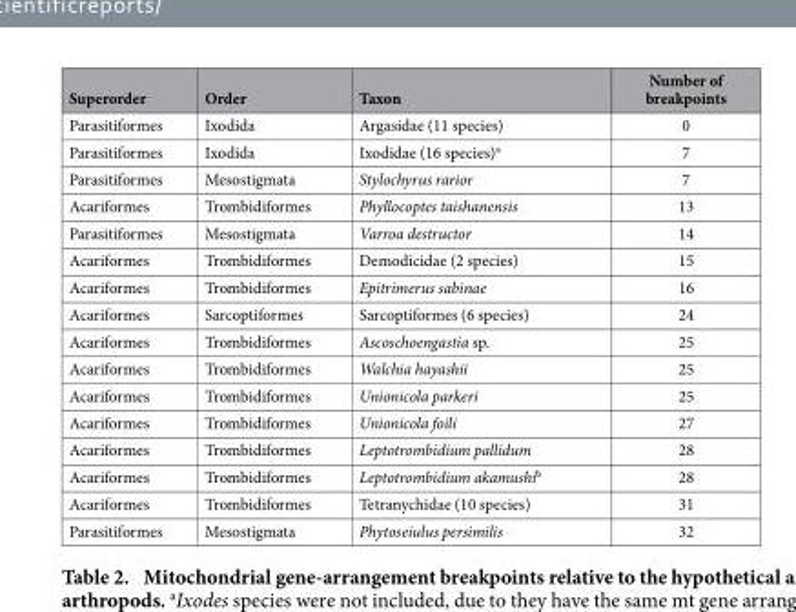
<table><thead><tr><td>Superorder</td><td>Order</td><td>Taxon</td><td>Number of breakpoints</td></tr></thead><tbody><tr><td>Parasitiformes</td><td>Ixodida</td><td>Argasidae (11 species)</td><td>0</td></tr><tr><td>Parasitiformes</td><td>Ixodida</td><td>Ixodidae (16 species)<sup>a</sup></td><td>7</td></tr><tr><td>Parasitiformes</td><td>Mesostigmata</td><td>Stylochyrus rarior</td><td>7</td></tr><tr><td>Acariformes</td><td>Trombidiformes</td><td>Phyllocoptes taishanensis</td><td>13</td></tr><tr><td>Parasitiformes</td><td>Mesostigmata</td><td>Varroa destructor</td><td>14</td></tr><tr><td>Acariformes</td><td>Trombidiformes</td><td>Demodicidae (2 species)</td><td>15</td></tr><tr><td>Acariformes</td><td>Trombidiformes</td><td>Epitrimerus sabinae</td><td>16</td></tr><tr><td>Acariformes</td><td>Sarcoptiformes</td><td>Sarcoptiformes (6 species)</td><td>24</td></tr><tr><td>Acariformes</td><td>Trombidiformes</td><td>Ascoschoengastia sp.</td><td>25</td></tr><tr><td>Acariformes</td><td>Trombidiformes</td><td>Walchia hayashii</td><td>25</td></tr><tr><td>Acariformes</td><td>Trombidiformes</td><td>Unionicola parkeri</td><td>25</td></tr><tr><td>Acariformes</td><td>Trombidiformes</td><td>Unionicola foili</td><td>27</td></tr><tr><td>Acariformes</td><td>Trombidiformes</td><td>Leptotrombidium pallidum</td><td>28</td></tr><tr><td>Acariformes</td><td>Trombidiformes</td><td>Leptotrombidium akamushi<sup>b</sup></td><td>28</td></tr><tr><td>Acariformes</td><td>Trombidiformes</td><td>Tetranychidae (10 species)</td><td>31</td></tr><tr><td>Parasitiformes</td><td>Mesostigmata</td><td>Phytoseiulus persimilis</td><td>32</td></tr></tbody></table>